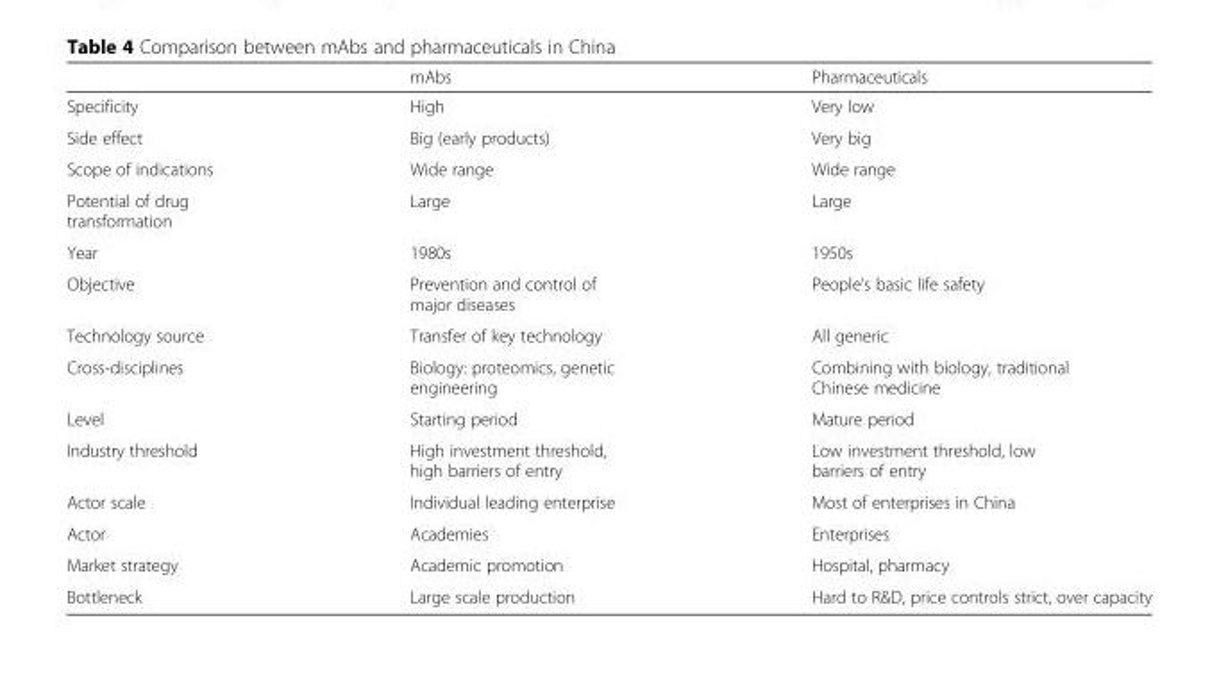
<table><thead><tr><td></td><td>mAbs</td><td>Pharmaceuticals</td></tr></thead><tbody><tr><td>Specificity</td><td>High</td><td>Very low</td></tr><tr><td>Side effect</td><td>Big (early products)</td><td>Very big</td></tr><tr><td>Scope of indications</td><td>Wide range</td><td>Wide range</td></tr><tr><td>Potential of drug transformation</td><td>Large</td><td>Large</td></tr><tr><td>Year</td><td>1980s</td><td>1950s</td></tr><tr><td>Objective</td><td>Prevention and control of major diseases</td><td>People’s basic life safety</td></tr><tr><td>Technology source</td><td>Transfer of key technology</td><td>All generic</td></tr><tr><td>Cross-disciplines</td><td>Biology: proteomics, genetic engineering</td><td>Combining with biology, traditional Chinese medicine</td></tr><tr><td>Level</td><td>Starting period</td><td>Mature period</td></tr><tr><td>Industry threshold</td><td>High investment threshold, high barriers of entry</td><td>Low investment threshold, low barriers of entry</td></tr><tr><td>Actor scale</td><td>Individual leading enterprise</td><td>Most of enterprises in China</td></tr><tr><td>Actor</td><td>Academies</td><td>Enterprises</td></tr><tr><td>Market strategy</td><td>Academic promotion</td><td>Hospital, pharmacy</td></tr><tr><td>Bottleneck</td><td>Large scale production</td><td>Hard to R&amp;D, price controls strict, over capacity</td></tr></tbody></table>